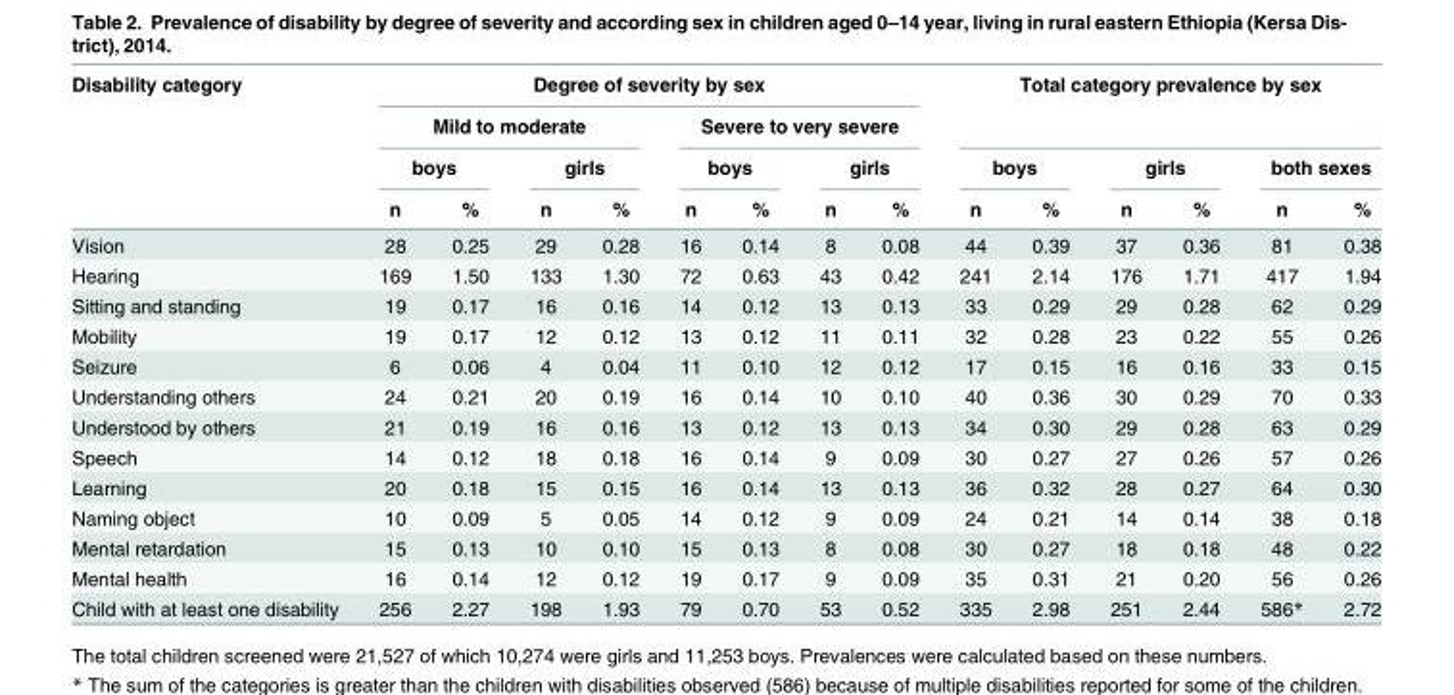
<table><thead><tr><td rowspan="4">Disability category</td><td colspan="8">Degree of severity by sex</td><td rowspan="2" colspan="6">Total category prevalence by sex</td></tr><tr><td colspan="4">Mild to moderate</td><td colspan="4">Severe to very severe</td></tr><tr><td colspan="2">boys</td><td colspan="2">girls</td><td colspan="2">boys</td><td colspan="2">girls</td><td colspan="2">boys</td><td colspan="2">girls</td><td colspan="2">both sexes</td></tr><tr><td>n</td><td>%</td><td>n</td><td>%</td><td>n</td><td>%</td><td>n</td><td>%</td><td>n</td><td>%</td><td>n</td><td>%</td><td>n</td><td>%</td></tr></thead><tbody><tr><td>Vision</td><td>28</td><td>0.25</td><td>29</td><td>0.28</td><td>16</td><td>0.14</td><td>8</td><td>0.08</td><td>44</td><td>0.39</td><td>37</td><td>0.36</td><td>81</td><td>0.38</td></tr><tr><td>Hearing</td><td>169</td><td>1.50</td><td>133</td><td>1.30</td><td>72</td><td>0.63</td><td>43</td><td>0.42</td><td>241</td><td>2.14</td><td>176</td><td>1.71</td><td>417</td><td>1.94</td></tr><tr><td>Sitting and standing</td><td>19</td><td>0.17</td><td>16</td><td>0.16</td><td>14</td><td>0.12</td><td>13</td><td>0.13</td><td>33</td><td>0.29</td><td>29</td><td>0.28</td><td>62</td><td>0.29</td></tr><tr><td>Mobility</td><td>19</td><td>0.17</td><td>12</td><td>0.12</td><td>13</td><td>0.12</td><td>11</td><td>0.11</td><td>32</td><td>0.28</td><td>23</td><td>0.22</td><td>55</td><td>0.26</td></tr><tr><td>Seizure</td><td>6</td><td>0.06</td><td>4</td><td>0.04</td><td>11</td><td>0.10</td><td>12</td><td>0.12</td><td>17</td><td>0.15</td><td>16</td><td>0.16</td><td>33</td><td>0.15</td></tr><tr><td>Understanding others</td><td>24</td><td>0.21</td><td>20</td><td>0.19</td><td>16</td><td>0.14</td><td>10</td><td>0.10</td><td>40</td><td>0.36</td><td>30</td><td>0.29</td><td>70</td><td>0.33</td></tr><tr><td>Understood by others</td><td>21</td><td>0.19</td><td>16</td><td>0.16</td><td>13</td><td>0.12</td><td>13</td><td>0.13</td><td>34</td><td>0.30</td><td>29</td><td>0.28</td><td>63</td><td>0.29</td></tr><tr><td>Speech</td><td>14</td><td>0.12</td><td>18</td><td>0.18</td><td>16</td><td>0.14</td><td>9</td><td>0.09</td><td>30</td><td>0.27</td><td>27</td><td>0.26</td><td>57</td><td>0.26</td></tr><tr><td>Learning</td><td>20</td><td>0.18</td><td>15</td><td>0.15</td><td>16</td><td>0.14</td><td>13</td><td>0.13</td><td>36</td><td>0.32</td><td>28</td><td>0.27</td><td>64</td><td>0.30</td></tr><tr><td>Naming object</td><td>10</td><td>0.09</td><td>5</td><td>0.05</td><td>14</td><td>0.12</td><td>9</td><td>0.09</td><td>24</td><td>0.21</td><td>14</td><td>0.14</td><td>38</td><td>0.18</td></tr><tr><td>Mental retardation</td><td>15</td><td>0.13</td><td>10</td><td>0.10</td><td>15</td><td>0.13</td><td>8</td><td>0.08</td><td>30</td><td>0.27</td><td>18</td><td>0.18</td><td>48</td><td>0.22</td></tr><tr><td>Mental health</td><td>16</td><td>0.14</td><td>12</td><td>0.12</td><td>19</td><td>0.17</td><td>9</td><td>0.09</td><td>35</td><td>0.31</td><td>21</td><td>0.20</td><td>56</td><td>0.26</td></tr><tr><td>Child with at least one disability</td><td>256</td><td>2.27</td><td>198</td><td>1.93</td><td>79</td><td>0.70</td><td>53</td><td>0.52</td><td>335</td><td>2.98</td><td>251</td><td>2.44</td><td>586*</td><td>2.72</td></tr></tbody></table>